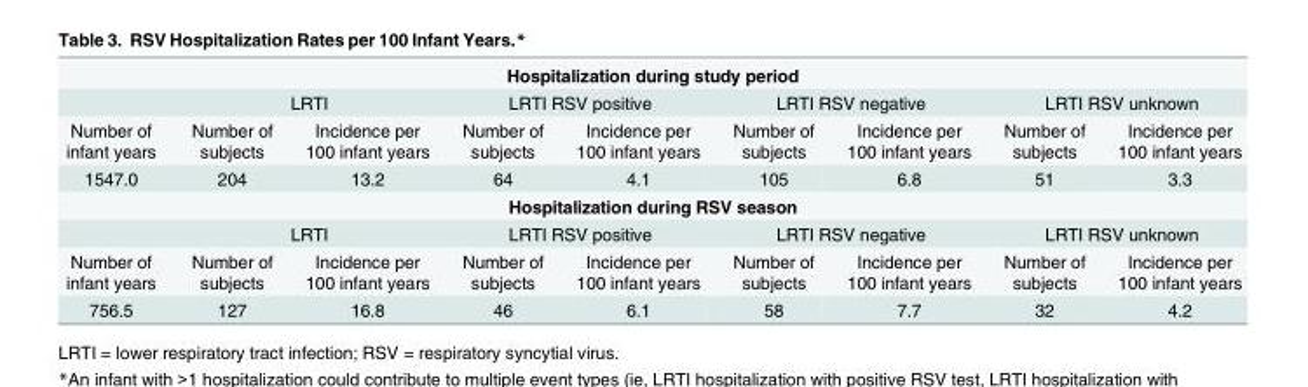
<table><tbody><tr><td colspan="9">Hospitalization during study period</td></tr><tr><td></td><td colspan="2">LRTI</td><td colspan="2">LRTI RSV positive</td><td colspan="2">LRTI RSV negative</td><td colspan="2">LRTI RSV unknown</td></tr><tr><td>Number of infant years</td><td>Number of subjects</td><td>Incidence per 100 infant years</td><td>Number of subjects</td><td>Incidence per 100 infant years</td><td>Number of subjects</td><td>Incidence per 100 infant years</td><td>Number of subjects</td><td>Incidence per 100 infant years</td></tr><tr><td>1547.0</td><td>204</td><td>13.2</td><td>64</td><td>4.1</td><td>105</td><td>6.8</td><td>51</td><td>3.3</td></tr><tr><td colspan="9">Hospitalization during RSV season</td></tr><tr><td></td><td colspan="2">LRTI</td><td colspan="2">LRTI RSV positive</td><td colspan="2">LRTI RSV negative</td><td colspan="2">LRTI RSV unknown</td></tr><tr><td>Number of infant years</td><td>Number of subjects</td><td>Incidence per 100 infant years</td><td>Number of subjects</td><td>Incidence per 100 infant years</td><td>Number of subjects</td><td>Incidence per 100 infant years</td><td>Number of subjects</td><td>Incidence per 100 infant years</td></tr><tr><td>756.5</td><td>127</td><td>16.8</td><td>46</td><td>6.1</td><td>58</td><td>7.7</td><td>32</td><td>4.2</td></tr></tbody></table>